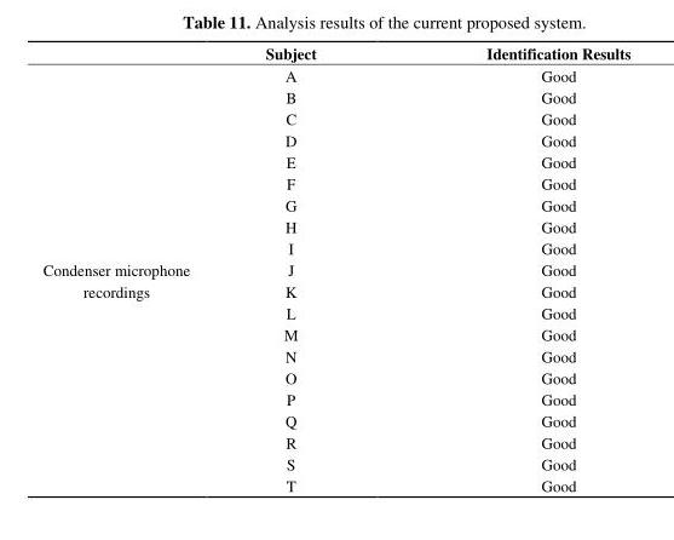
<table><thead><tr><td></td><td>Subject</td><td>Identification Results</td></tr></thead><tbody><tr><td rowspan="20">Condenser microphone recordings</td><td>A</td><td>Good</td></tr><tr><td>B</td><td>Good</td></tr><tr><td>C</td><td>Good</td></tr><tr><td>D</td><td>Good</td></tr><tr><td>E</td><td>Good</td></tr><tr><td>F</td><td>Good</td></tr><tr><td>G</td><td>Good</td></tr><tr><td>H</td><td>Good</td></tr><tr><td>I</td><td>Good</td></tr><tr><td>J</td><td>Good</td></tr><tr><td>K</td><td>Good</td></tr><tr><td>L</td><td>Good</td></tr><tr><td>M</td><td>Good</td></tr><tr><td>N</td><td>Good</td></tr><tr><td>O</td><td>Good</td></tr><tr><td>P</td><td>Good</td></tr><tr><td>Q</td><td>Good</td></tr><tr><td>R</td><td>Good</td></tr><tr><td>S</td><td>Good</td></tr><tr><td>T</td><td>Good</td></tr></tbody></table>